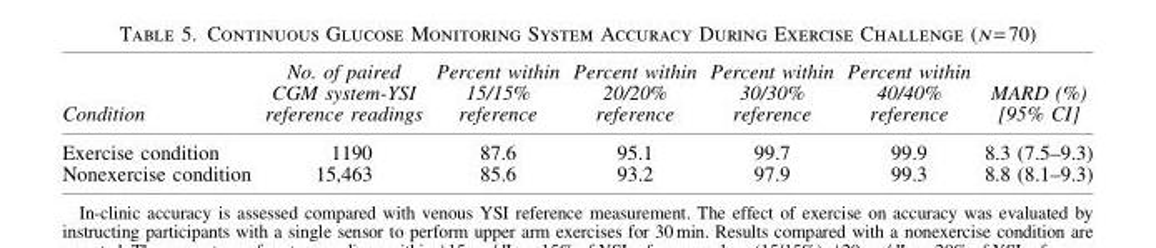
<table><thead><tr><td>Condition</td><td>No. of paired CGM system-YSI reference readings</td><td>Percent within 15/15% reference</td><td>Percent within 20/20% reference</td><td>Percent within 30/30% reference</td><td>Percent within 40/40% reference</td><td>MARD (%) [95% CI]</td></tr></thead><tbody><tr><td>Exercise condition</td><td>1190</td><td>87.6</td><td>95.1</td><td>99.7</td><td>99.9</td><td>8.3 (7.5–9.3)</td></tr><tr><td>Nonexercise condition</td><td>15,463</td><td>85.6</td><td>93.2</td><td>97.9</td><td>99.3</td><td>8.8 (8.1–9.3)</td></tr></tbody></table>